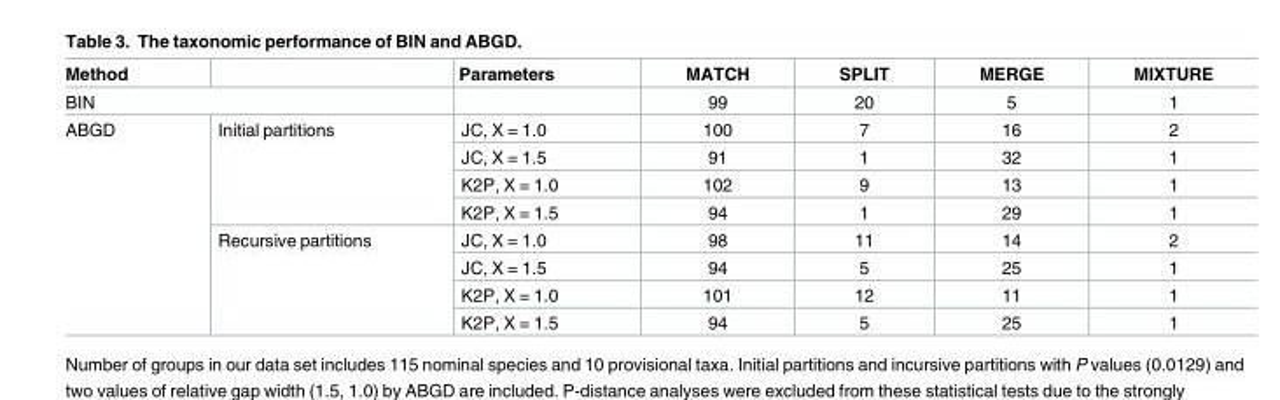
<table><thead><tr><td>Method</td><td></td><td>Parameters</td><td>MATCH</td><td>SPLIT</td><td>MERGE</td><td>MIXTURE</td></tr></thead><tbody><tr><td colspan="2">BIN</td><td></td><td>99</td><td>20</td><td>5</td><td>1</td></tr><tr><td rowspan="8">ABGD</td><td rowspan="4">Initial partitions</td><td>JC, X = 1.0</td><td>100</td><td>7</td><td>16</td><td>2</td></tr><tr><td>JC, X = 1.5</td><td>91</td><td>1</td><td>32</td><td>1</td></tr><tr><td>K2P, X = 1.0</td><td>102</td><td>9</td><td>13</td><td>1</td></tr><tr><td>K2P, X = 1.5</td><td>94</td><td>1</td><td>29</td><td>1</td></tr><tr><td rowspan="4">Recursive partitions</td><td>JC, X = 1.0</td><td>98</td><td>11</td><td>14</td><td>2</td></tr><tr><td>JC, X = 1.5</td><td>94</td><td>5</td><td>25</td><td>1</td></tr><tr><td>K2P, X = 1.0</td><td>101</td><td>12</td><td>11</td><td>1</td></tr><tr><td>K2P, X = 1.5</td><td>94</td><td>5</td><td>25</td><td>1</td></tr></tbody></table>